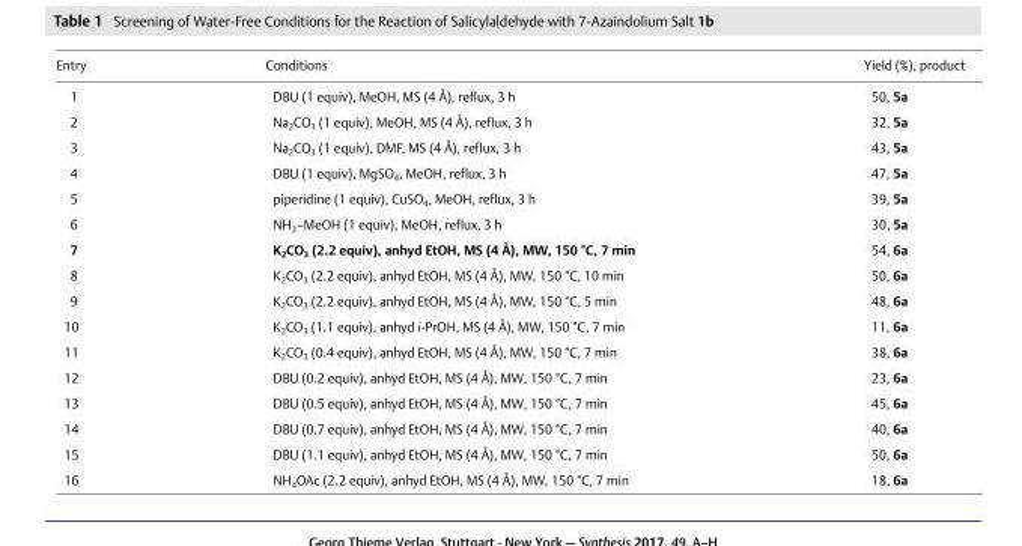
<table><thead><tr><td>Entry</td><td>Conditions</td><td>Yield (%), product</td></tr></thead><tbody><tr><td>1</td><td>DBU (1 equiv), MeOH, MS (4 Å), reflux, 3 h</td><td>50, 5a</td></tr><tr><td>2</td><td>Na<sub>2</sub>CO<sub>3</sub> (1 equiv), MeOH, MS (4 Å), reflux, 3 h</td><td>32, 5a</td></tr><tr><td>3</td><td>Na<sub>2</sub>CO<sub>3</sub> (1 equiv), DMF, MS (4 Å), reflux, 3 h</td><td>43, 5a</td></tr><tr><td>4</td><td>DBU (1 equiv), MgSO<sub>4</sub>, MeOH, reflux, 3 h</td><td>47, 5a</td></tr><tr><td>5</td><td>piperidine (1 equiv), CuSO<sub>4</sub>, MeOH, reflux, 3 h</td><td>39, 5a</td></tr><tr><td>6</td><td>NH<sub>3</sub>–MeOH (1 equiv), MeOH, reflux, 3 h</td><td>30, 5a</td></tr><tr><td>7</td><td>K<sub>2</sub>CO<sub>3</sub> (2.2 equiv), anhyd EtOH, MS (4 Å), MW, 150 °C, 7 min</td><td>54, 6a</td></tr><tr><td>8</td><td>K<sub>2</sub>CO<sub>3</sub> (2.2 equiv), anhyd EtOH, MS (4 Å), MW, 150 °C, 10 min</td><td>50, 6a</td></tr><tr><td>9</td><td>K<sub>2</sub>CO<sub>3</sub> (2.2 equiv), anhyd EtOH, MS (4 Å), MW, 150 °C, 5 min</td><td>48, 6a</td></tr><tr><td>10</td><td>K<sub>2</sub>CO<sub>3</sub> (1.1 equiv), anhyd i-PrOH, MS (4 Å), MW, 150 °C, 7 min</td><td>11, 6a</td></tr><tr><td>11</td><td>K<sub>2</sub>CO<sub>3</sub> (0.4 equiv), anhyd EtOH, MS (4 Å), MW, 150 °C, 7 min</td><td>38, 6a</td></tr><tr><td>12</td><td>DBU (0.2 equiv), anhyd EtOH, MS (4 Å), MW, 150 °C, 7 min</td><td>23, 6a</td></tr><tr><td>13</td><td>DBU (0.5 equiv), anhyd EtOH, MS (4 Å), MW, 150 °C, 7 min</td><td>45, 6a</td></tr><tr><td>14</td><td>DBU (0.7 equiv), anhyd EtOH, MS (4 Å), MW, 150 °C, 7 min</td><td>40, 6a</td></tr><tr><td>15</td><td>DBU (1.1 equiv), anhyd EtOH, MS (4 Å), MW, 150 °C, 7 min</td><td>50, 6a</td></tr><tr><td>16</td><td>NH<sub>4</sub>OAc (2.2 equiv), anhyd EtOH, MS (4 Å), MW, 150 °C, 7 min</td><td>18, 6a</td></tr></tbody></table>